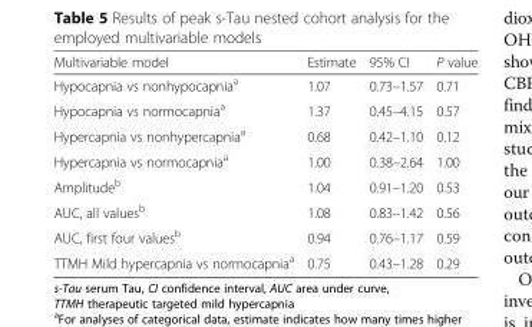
<table><thead><tr><td>Multivariable model</td><td>Estimate</td><td>95% CI</td><td>P value</td></tr></thead><tbody><tr><td>Hypocapnia vs nonhypocapnia<sup>a</sup></td><td>1.07</td><td>0.73–1.57</td><td>0.71</td></tr><tr><td>Hypocapnia vs normocapnia<sup>a</sup></td><td>1.37</td><td>0.45–4.15</td><td>0.57</td></tr><tr><td>Hypercapnia vs nonhypercapnia<sup>a</sup></td><td>0.68</td><td>0.42–1.10</td><td>0.12</td></tr><tr><td>Hypercapnia vs normocapnia<sup>a</sup></td><td>1.00</td><td>0.38–2.64</td><td>1.00</td></tr><tr><td>Amplitude<sup>b</sup></td><td>1.04</td><td>0.91–1.20</td><td>0.53</td></tr><tr><td>AUC, all values<sup>b</sup></td><td>1.08</td><td>0.83–1.42</td><td>0.56</td></tr><tr><td>AUC, first four values<sup>b</sup></td><td>0.94</td><td>0.76–1.17</td><td>0.59</td></tr><tr><td>TTMH Mild hypercapnia vs normocapnia<sup>a</sup></td><td>0.75</td><td>0.43–1.28</td><td>0.29</td></tr></tbody></table>